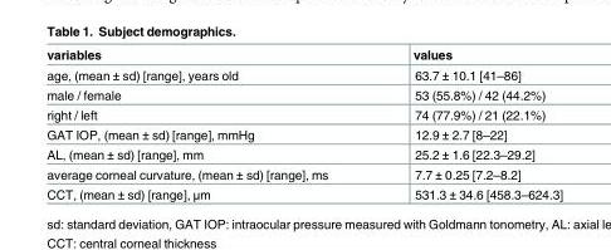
<table><thead><tr><td>variables</td><td>values</td></tr></thead><tbody><tr><td>age, (mean ± sd) [range], years old</td><td>63.7 ± 10.1 [41–86]</td></tr><tr><td>male / female</td><td>53 (55.8%) / 42 (44.2%)</td></tr><tr><td>right / left</td><td>74 (77.9%) / 21 (22.1%)</td></tr><tr><td>GAT IOP, (mean ± sd) [range], mmHg</td><td>12.9 ± 2.7 [8–22]</td></tr><tr><td>AL, (mean ± sd) [range], mm</td><td>25.2 ± 1.6 [22.3–29.2]</td></tr><tr><td>average corneal curvature, (mean ± sd) [range], ms</td><td>7.7 ± 0.25 [7.2–8.2]</td></tr><tr><td>CCT, (mean ± sd) [range], μm</td><td>531.3 ± 34.6 [458.3–624.3]</td></tr></tbody></table>